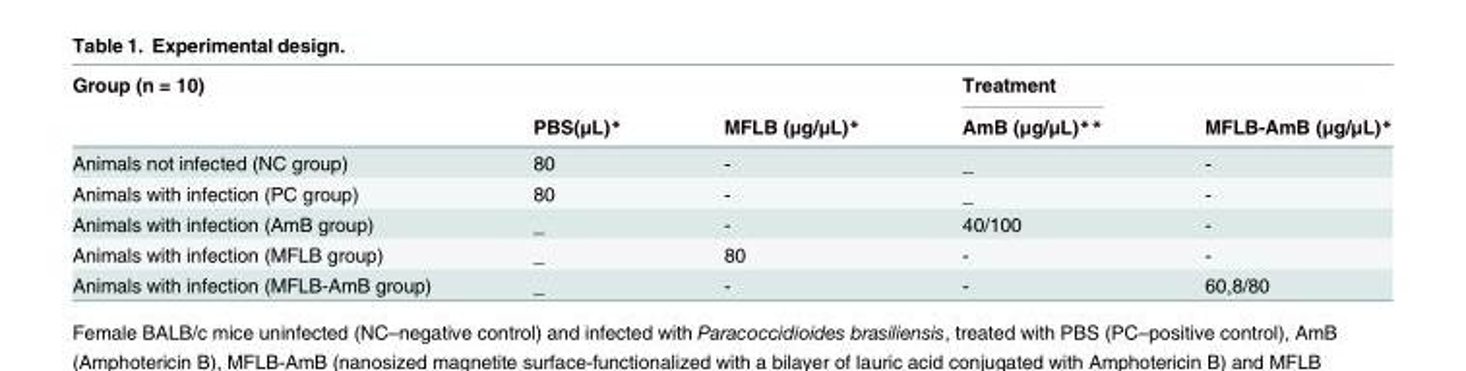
<table><thead><tr><td rowspan="2">Group (n = 10)</td><td rowspan="2">PBS(μL)*</td><td rowspan="2">MFLB (μg/μL)*</td><td rowspan="2">Treatment AmB (μg/μL)**</td><td rowspan="2">MFLB-AmB (μg/μL)*</td></tr><tr></tr></thead><tbody><tr><td>Animals not infected (NC group)</td><td>80</td><td>-</td><td>_</td><td>-</td></tr><tr><td>Animals with infection (PC group)</td><td>80</td><td>-</td><td>_</td><td>-</td></tr><tr><td>Animals with infection (AmB group)</td><td>_</td><td>-</td><td>40/100</td><td>-</td></tr><tr><td>Animals with infection (MFLB group)</td><td>_</td><td>80</td><td>-</td><td>-</td></tr><tr><td>Animals with infection (MFLB-AmB group)</td><td>_</td><td>-</td><td>-</td><td>60,8/80</td></tr></tbody></table>